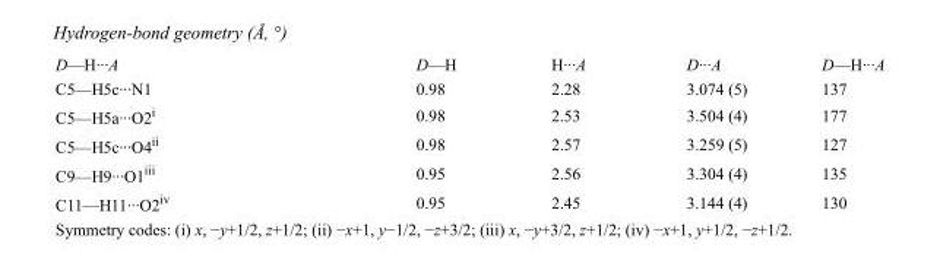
<table><tbody><tr><td>D—H···A</td><td>D—H</td><td>H···A</td><td>D···A</td><td>D—H···A</td></tr><tr><td>C5—H5c···N1</td><td>0.98</td><td>2.28</td><td>3.074 (5)</td><td>137</td></tr><tr><td>C5—H5a···O2<sup>i</sup></td><td>0.98</td><td>2.53</td><td>3.504 (4)</td><td>177</td></tr><tr><td>C5—H5c···O4<sup>ii</sup></td><td>0.98</td><td>2.57</td><td>3.259 (5)</td><td>127</td></tr><tr><td>C9—H9···O1<sup>iii</sup></td><td>0.95</td><td>2.56</td><td>3.304 (4)</td><td>135</td></tr><tr><td>C11—H11···O2<sup>iv</sup></td><td>0.95</td><td>2.45</td><td>3.144 (4)</td><td>130</td></tr></tbody></table>